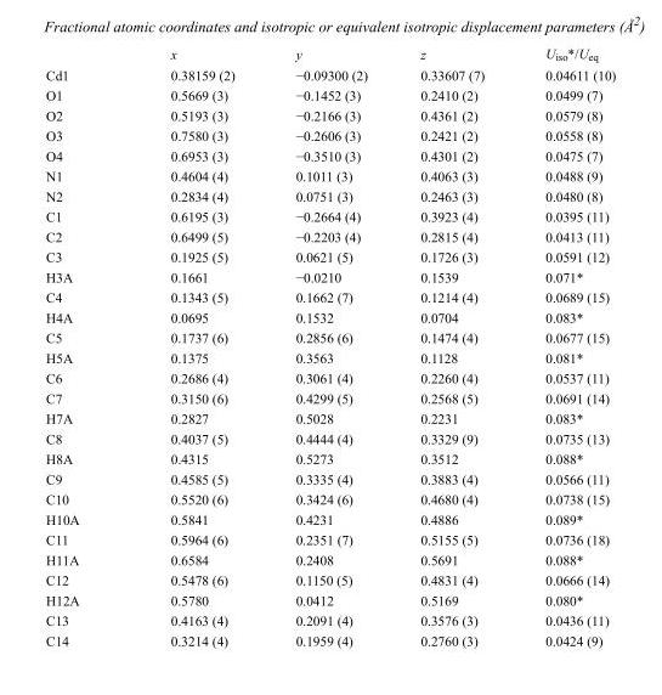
<table><thead><tr><td></td><td>x</td><td>y</td><td>z</td><td>U<sub>iso</sub>*/U<sub>eq</sub></td></tr></thead><tbody><tr><td>Cd1</td><td>0.38159 (2)</td><td>−0.09300 (2)</td><td>0.33607 (7)</td><td>0.04611 (10)</td></tr><tr><td>O1</td><td>0.5669 (3)</td><td>−0.1452 (3)</td><td>0.2410 (2)</td><td>0.0499 (7)</td></tr><tr><td>O2</td><td>0.5193 (3)</td><td>−0.2166 (3)</td><td>0.4361 (2)</td><td>0.0579 (8)</td></tr><tr><td>O3</td><td>0.7580 (3)</td><td>−0.2606 (3)</td><td>0.2421 (2)</td><td>0.0558 (8)</td></tr><tr><td>O4</td><td>0.6953 (3)</td><td>−0.3510 (3)</td><td>0.4301 (2)</td><td>0.0475 (7)</td></tr><tr><td>N1</td><td>0.4604 (4)</td><td>0.1011 (3)</td><td>0.4063 (3)</td><td>0.0488 (9)</td></tr><tr><td>N2</td><td>0.2834 (4)</td><td>0.0751 (3)</td><td>0.2463 (3)</td><td>0.0480 (8)</td></tr><tr><td>C1</td><td>0.6195 (3)</td><td>−0.2664 (4)</td><td>0.3923 (4)</td><td>0.0395 (11)</td></tr><tr><td>C2</td><td>0.6499 (5)</td><td>−0.2203 (4)</td><td>0.2815 (4)</td><td>0.0413 (11)</td></tr><tr><td>C3</td><td>0.1925 (5)</td><td>0.0621 (5)</td><td>0.1726 (3)</td><td>0.0591 (12)</td></tr><tr><td>H3A</td><td>0.1661</td><td>−0.0210</td><td>0.1539</td><td>0.071*</td></tr><tr><td>C4</td><td>0.1343 (5)</td><td>0.1662 (7)</td><td>0.1214 (4)</td><td>0.0689 (15)</td></tr><tr><td>H4A</td><td>0.0695</td><td>0.1532</td><td>0.0704</td><td>0.083*</td></tr><tr><td>C5</td><td>0.1737 (6)</td><td>0.2856 (6)</td><td>0.1474 (4)</td><td>0.0677 (15)</td></tr><tr><td>H5A</td><td>0.1375</td><td>0.3563</td><td>0.1128</td><td>0.081*</td></tr><tr><td>C6</td><td>0.2686 (4)</td><td>0.3061 (4)</td><td>0.2260 (4)</td><td>0.0537 (11)</td></tr><tr><td>C7</td><td>0.3150 (6)</td><td>0.4299 (5)</td><td>0.2568 (5)</td><td>0.0691 (14)</td></tr><tr><td>H7A</td><td>0.2827</td><td>0.5028</td><td>0.2231</td><td>0.083*</td></tr><tr><td>C8</td><td>0.4037 (5)</td><td>0.4444 (4)</td><td>0.3329 (9)</td><td>0.0735 (13)</td></tr><tr><td>H8A</td><td>0.4315</td><td>0.5273</td><td>0.3512</td><td>0.088*</td></tr><tr><td>C9</td><td>0.4585 (5)</td><td>0.3335 (4)</td><td>0.3883 (4)</td><td>0.0566 (11)</td></tr><tr><td>C10</td><td>0.5520 (6)</td><td>0.3424 (6)</td><td>0.4680 (4)</td><td>0.0738 (15)</td></tr><tr><td>H10A</td><td>0.5841</td><td>0.4231</td><td>0.4886</td><td>0.089*</td></tr><tr><td>C11</td><td>0.5964 (6)</td><td>0.2351 (7)</td><td>0.5155 (5)</td><td>0.0736 (18)</td></tr><tr><td>H11A</td><td>0.6584</td><td>0.2408</td><td>0.5691</td><td>0.088*</td></tr><tr><td>C12</td><td>0.5478 (6)</td><td>0.1150 (5)</td><td>0.4831 (4)</td><td>0.0666 (14)</td></tr><tr><td>H12A</td><td>0.5780</td><td>0.0412</td><td>0.5169</td><td>0.080*</td></tr><tr><td>C13</td><td>0.4163 (4)</td><td>0.2091 (4)</td><td>0.3576 (3)</td><td>0.0436 (11)</td></tr><tr><td>C14</td><td>0.3214 (4)</td><td>0.1959 (4)</td><td>0.2760 (3)</td><td>0.0424 (9)</td></tr></tbody></table>